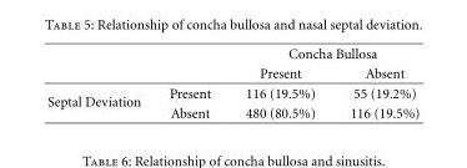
<table><thead><tr><td rowspan="2"></td><td rowspan="2"></td><td colspan="2">Concha Bullosa</td></tr><tr><td>Present</td><td>Absent</td></tr></thead><tbody><tr><td rowspan="2">Septal Deviation</td><td>Present</td><td>116 (19.5%)</td><td>55 (19.2%)</td></tr><tr><td>Absent</td><td>480 (80.5%)</td><td>116 (19.5%)</td></tr></tbody></table>